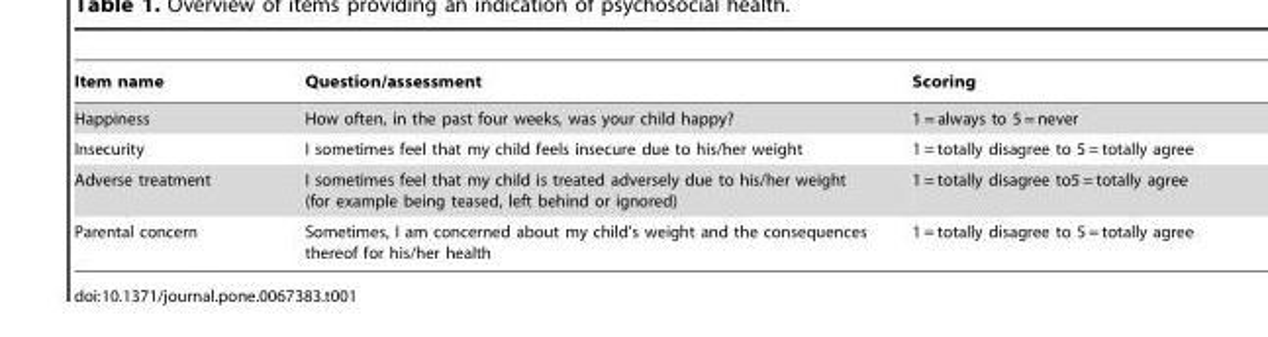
<table><thead><tr><td>Item name</td><td>Question/assessment</td><td>Scoring</td></tr></thead><tbody><tr><td>Happiness</td><td>How often, in the past four weeks, was your child happy?</td><td>1 = always to 5 = never</td></tr><tr><td>Insecurity</td><td>I sometimes feel that my child feels insecure due to his/her weight</td><td>1 = totally disagree to 5 = totally agree</td></tr><tr><td>Adverse treatment</td><td>I sometimes feel that my child is treated adversely due to his/her weight (for example being teased, left behind or ignored)</td><td>1 = totally disagree to5 = totally agree</td></tr><tr><td>Parental concern</td><td>Sometimes, I am concerned about my child’s weight and the consequences thereof for his/her health</td><td>1 = totally disagree to 5 = totally agree</td></tr></tbody></table>